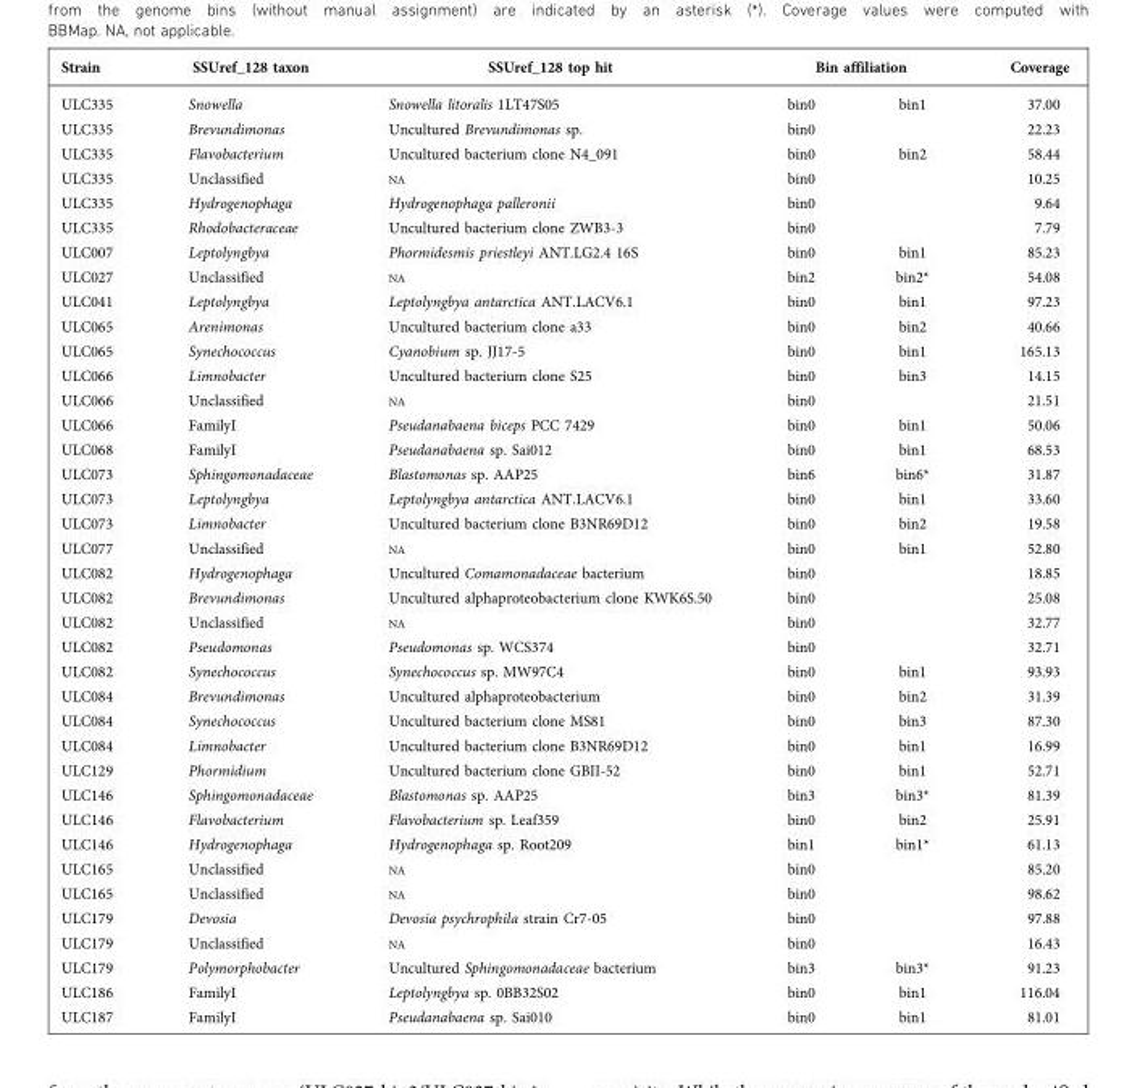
<table><thead><tr><td rowspan="2">Strain ULC335</td><td rowspan="2">SSUref_128 taxon Snowella</td><td rowspan="2">SSUref_128 top hit Snowella litoralis 1LT47S05</td><td colspan="2">Bin affiliation</td><td rowspan="2">Coverage 37.00</td></tr><tr><td>bin0</td><td>bin1</td></tr></thead><tbody><tr><td>ULC335</td><td>Brevundimonas</td><td>Uncultured Brevundimonas sp.</td><td>bin0</td><td></td><td>22.23</td></tr><tr><td>ULC335</td><td>Flavobacterium</td><td>Uncultured bacterium clone N4_091</td><td>bin0</td><td>bin2</td><td>58.44</td></tr><tr><td>ULC335</td><td>Unclassified</td><td>NA</td><td>bin0</td><td></td><td>10.25</td></tr><tr><td>ULC335</td><td>Hydrogenophaga</td><td>Hydrogenophaga palleronii</td><td>bin0</td><td></td><td>9.64</td></tr><tr><td>ULC335</td><td>Rhodobacteraceae</td><td>Uncultured bacterium clone ZWB3-3</td><td>bin0</td><td></td><td>7.79</td></tr><tr><td>ULC007</td><td>Leptolyngbya</td><td>Phormidesmis priestleyi ANT.LG2.4 16S</td><td>bin0</td><td>bin1</td><td>85.23</td></tr><tr><td>ULC027</td><td>Unclassified</td><td>NA</td><td>bin2</td><td>bin2*</td><td>54.08</td></tr><tr><td>ULC041</td><td>Leptolyngbya</td><td>Leptolyngbya antarctica ANT.LACV6.1</td><td>bin0</td><td>bin1</td><td>97.23</td></tr><tr><td>ULC065</td><td>Arenimonas</td><td>Uncultured bacterium clone a33</td><td>bin0</td><td>bin2</td><td>40.66</td></tr><tr><td>ULC065</td><td>Synechococcus</td><td>Cyanobium sp. JJ17-5</td><td>bin0</td><td>bin1</td><td>165.13</td></tr><tr><td>ULC066</td><td>Limnobacter</td><td>Uncultured bacterium clone S25</td><td>bin0</td><td>bin3</td><td>14.15</td></tr><tr><td>ULC066</td><td>Unclassified</td><td>NA</td><td>bin0</td><td></td><td>21.51</td></tr><tr><td>ULC066</td><td>FamilyI</td><td>Pseudanabaena biceps PCC 7429</td><td>bin0</td><td>bin1</td><td>50.06</td></tr><tr><td>ULC068</td><td>FamilyI</td><td>Pseudanabaena sp. Sai012</td><td>bin0</td><td>bin1</td><td>68.53</td></tr><tr><td>ULC073</td><td>Sphingomonadaceae</td><td>Blastomonas sp. AAP25</td><td>bin6</td><td>bin6*</td><td>31.87</td></tr><tr><td>ULC073</td><td>Leptolyngbya</td><td>Leptolyngbya antarctica ANT.LACV6.1</td><td>bin0</td><td>bin1</td><td>33.60</td></tr><tr><td>ULC073</td><td>Limnobacter</td><td>Uncultured bacterium clone B3NR69D12</td><td>bin0</td><td>bin2</td><td>19.58</td></tr><tr><td>ULC077</td><td>Unclassified</td><td>NA</td><td>bin0</td><td>bin1</td><td>52.80</td></tr><tr><td>ULC082</td><td>Hydrogenophaga</td><td>Uncultured Comamonadaceae bacterium</td><td>bin0</td><td></td><td>18.85</td></tr><tr><td>ULC082</td><td>Brevundimonas</td><td>Uncultured alphaproteobacterium clone KWK6S.50</td><td>bin0</td><td></td><td>25.08</td></tr><tr><td>ULC082</td><td>Unclassified</td><td>NA</td><td>bin0</td><td></td><td>32.77</td></tr><tr><td>ULC082</td><td>Pseudomonas</td><td>Pseudomonas sp. WCS374</td><td>bin0</td><td></td><td>32.71</td></tr><tr><td>ULC082</td><td>Synechococcus</td><td>Synechococcus sp. MW97C4</td><td>bin0</td><td>bin1</td><td>93.93</td></tr><tr><td>ULC084</td><td>Brevundimonas</td><td>Uncultured alphaproteobacterium</td><td>bin0</td><td>bin2</td><td>31.39</td></tr><tr><td>ULC084</td><td>Synechococcus</td><td>Uncultured bacterium clone MS81</td><td>bin0</td><td>bin3</td><td>87.30</td></tr><tr><td>ULC084</td><td>Limnobacter</td><td>Uncultured bacterium clone B3NR69D12</td><td>bin0</td><td>bin1</td><td>16.99</td></tr><tr><td>ULC129</td><td>Phormidium</td><td>Uncultured bacterium clone GBII-52</td><td>bin0</td><td>bin1</td><td>52.71</td></tr><tr><td>ULC146</td><td>Sphingomonadaceae</td><td>Blastomonas sp. AAP25</td><td>bin3</td><td>bin3*</td><td>81.39</td></tr><tr><td>ULC146</td><td>Flavobacterium</td><td>Flavobacterium sp. Leaf359</td><td>bin0</td><td>bin2</td><td>25.91</td></tr><tr><td>ULC146</td><td>Hydrogenophaga</td><td>Hydrogenophaga sp. Root209</td><td>bin1</td><td>bin1*</td><td>61.13</td></tr><tr><td>ULC165</td><td>Unclassified</td><td>NA</td><td>bin0</td><td></td><td>85.20</td></tr><tr><td>ULC165</td><td>Unclassified</td><td>NA</td><td>bin0</td><td></td><td>98.62</td></tr><tr><td>ULC179</td><td>Devosia</td><td>Devosia psychrophila strain Cr7-05</td><td>bin0</td><td></td><td>97.88</td></tr><tr><td>ULC179</td><td>Unclassified</td><td>NA</td><td>bin0</td><td></td><td>16.43</td></tr><tr><td>ULC179</td><td>Polymorphobacter</td><td>Uncultured Sphingomonadaceae bacterium</td><td>bin3</td><td>bin3*</td><td>91.23</td></tr><tr><td>ULC186</td><td>FamilyI</td><td>Leptolyngbya sp. 0BB32S02</td><td>bin0</td><td>bin1</td><td>116.04</td></tr><tr><td>ULC187</td><td>FamilyI</td><td>Pseudanabaena sp. Sai010</td><td>bin0</td><td>bin1</td><td>81.01</td></tr></tbody></table>